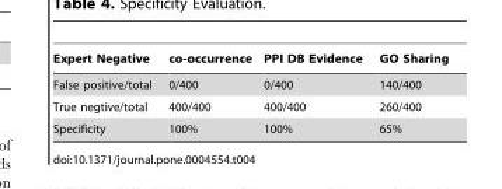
<table><thead><tr><td>Expert Negative</td><td>co-occurrence</td><td>PPI DB Evidence</td><td>GO Sharing</td></tr></thead><tbody><tr><td>False positive/total</td><td>0/400</td><td>0/400</td><td>140/400</td></tr><tr><td>True negtive/total</td><td>400/400</td><td>400/400</td><td>260/400</td></tr><tr><td>Specificity</td><td>100%</td><td>100%</td><td>65%</td></tr></tbody></table>